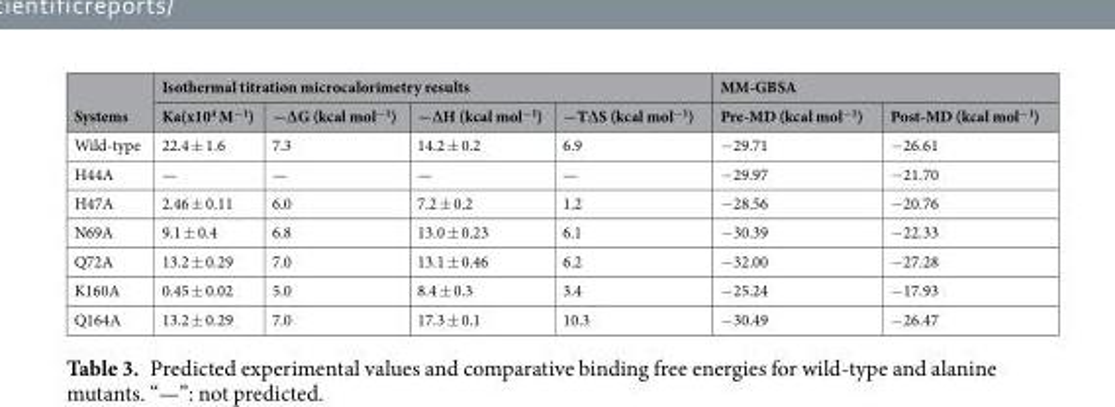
<table><thead><tr><td rowspan="2">Systems</td><td colspan="4">Isothermal titration microcalorimetry results</td><td colspan="2">MM-GBSA</td></tr><tr><td>Ka(x10<sup>4</sup> M<sup>−1</sup>)</td><td>−∆G (kcal mol<sup>−1</sup>)</td><td>−∆H (kcal mol<sup>−1</sup>)</td><td>−T∆S (kcal mol<sup>−1</sup>)</td><td>Pre-MD (kcal mol<sup>−1</sup>)</td><td>Post-MD (kcal mol<sup>−1</sup>)</td></tr></thead><tbody><tr><td>Wild-type</td><td>22.4 ± 1.6</td><td>7.3</td><td>14.2 ± 0.2</td><td>6.9</td><td>−29.71</td><td>−26.61</td></tr><tr><td>H44A</td><td>—</td><td>—</td><td>—</td><td>—</td><td>−29.97</td><td>−21.70</td></tr><tr><td>H47A</td><td>2.46 ± 0.11</td><td>6.0</td><td>7.2 ± 0.2</td><td>1.2</td><td>−28.56</td><td>−20.76</td></tr><tr><td>N69A</td><td>9.1 ± 0.4</td><td>6.8</td><td>13.0 ± 0.23</td><td>6.1</td><td>−30.39</td><td>−22.33</td></tr><tr><td>Q72A</td><td>13.2 ± 0.29</td><td>7.0</td><td>13.1 ± 0.46</td><td>6.2</td><td>−32.00</td><td>−27.28</td></tr><tr><td>K160A</td><td>0.45 ± 0.02</td><td>5.0</td><td>8.4 ± 0.3</td><td>3.4</td><td>−25.24</td><td>−17.93</td></tr><tr><td>Q164A</td><td>13.2 ± 0.29</td><td>7.0</td><td>17.3 ± 0.1</td><td>10.3</td><td>−30.49</td><td>−26.47</td></tr></tbody></table>